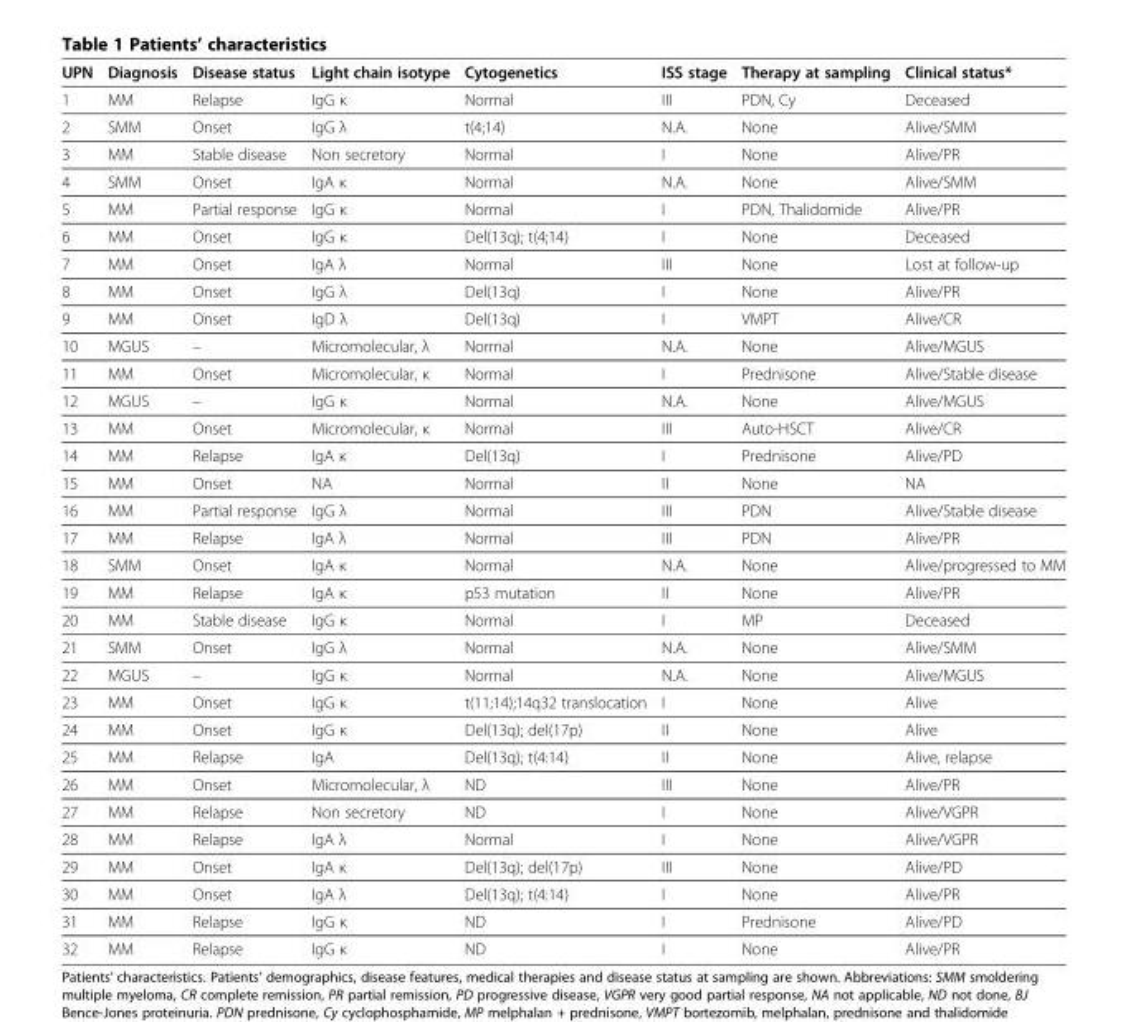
<table><thead><tr><td>UPN</td><td>Diagnosis</td><td>Disease status</td><td>Light chain isotype</td><td>Cytogenetics</td><td>ISS stage</td><td>Therapy at sampling</td><td>Clinical status*</td></tr></thead><tbody><tr><td>1</td><td>MM</td><td>Relapse</td><td>IgG κ</td><td>Normal</td><td>III</td><td>PDN, Cy</td><td>Deceased</td></tr><tr><td>2</td><td>SMM</td><td>Onset</td><td>IgG λ</td><td>t(4;14)</td><td>N.A.</td><td>None</td><td>Alive/SMM</td></tr><tr><td>3</td><td>MM</td><td>Stable disease</td><td>Non secretory</td><td>Normal</td><td>I</td><td>None</td><td>Alive/PR</td></tr><tr><td>4</td><td>SMM</td><td>Onset</td><td>IgA κ</td><td>Normal</td><td>N.A.</td><td>None</td><td>Alive/SMM</td></tr><tr><td>5</td><td>MM</td><td>Partial response</td><td>IgG κ</td><td>Normal</td><td>I</td><td>PDN, Thalidomide</td><td>Alive/PR</td></tr><tr><td>6</td><td>MM</td><td>Onset</td><td>IgG κ</td><td>Del(13q); t(4;14)</td><td>I</td><td>None</td><td>Deceased</td></tr><tr><td>7</td><td>MM</td><td>Onset</td><td>IgA λ</td><td>Normal</td><td>III</td><td>None</td><td>Lost at follow-up</td></tr><tr><td>8</td><td>MM</td><td>Onset</td><td>IgG λ</td><td>Del(13q)</td><td>I</td><td>None</td><td>Alive/PR</td></tr><tr><td>9</td><td>MM</td><td>Onset</td><td>IgD λ</td><td>Del(13q)</td><td>I</td><td>VMPT</td><td>Alive/CR</td></tr><tr><td>10</td><td>MGUS</td><td>–</td><td>Micromolecular, λ</td><td>Normal</td><td>N.A.</td><td>None</td><td>Alive/MGUS</td></tr><tr><td>11</td><td>MM</td><td>Onset</td><td>Micromolecular, κ</td><td>Normal</td><td>I</td><td>Prednisone</td><td>Alive/Stable disease</td></tr><tr><td>12</td><td>MGUS</td><td>–</td><td>IgG κ</td><td>Normal</td><td>N.A.</td><td>None</td><td>Alive/MGUS</td></tr><tr><td>13</td><td>MM</td><td>Onset</td><td>Micromolecular, κ</td><td>Normal</td><td>III</td><td>Auto-HSCT</td><td>Alive/CR</td></tr><tr><td>14</td><td>MM</td><td>Relapse</td><td>IgA κ</td><td>Del(13q)</td><td>I</td><td>Prednisone</td><td>Alive/PD</td></tr><tr><td>15</td><td>MM</td><td>Onset</td><td>NA</td><td>Normal</td><td>II</td><td>None</td><td>NA</td></tr><tr><td>16</td><td>MM</td><td>Partial response</td><td>IgG λ</td><td>Normal</td><td>III</td><td>PDN</td><td>Alive/Stable disease</td></tr><tr><td>17</td><td>MM</td><td>Relapse</td><td>IgA λ</td><td>Normal</td><td>III</td><td>PDN</td><td>Alive/PR</td></tr><tr><td>18</td><td>SMM</td><td>Onset</td><td>IgA κ</td><td>Normal</td><td>N.A.</td><td>None</td><td>Alive/progressed to MM</td></tr><tr><td>19</td><td>MM</td><td>Relapse</td><td>IgA κ</td><td>p53 mutation</td><td>II</td><td>None</td><td>Alive/PR</td></tr><tr><td>20</td><td>MM</td><td>Stable disease</td><td>IgG κ</td><td>Normal</td><td>I</td><td>MP</td><td>Deceased</td></tr><tr><td>21</td><td>SMM</td><td>Onset</td><td>IgG λ</td><td>Normal</td><td>N.A.</td><td>None</td><td>Alive/SMM</td></tr><tr><td>22</td><td>MGUS</td><td>–</td><td>IgG κ</td><td>Normal</td><td>N.A.</td><td>None</td><td>Alive/MGUS</td></tr><tr><td>23</td><td>MM</td><td>Onset</td><td>IgG κ</td><td>t(11;14);14q32 translocation</td><td>I</td><td>None</td><td>Alive</td></tr><tr><td>24</td><td>MM</td><td>Onset</td><td>IgG κ</td><td>Del(13q); del(17p)</td><td>II</td><td>None</td><td>Alive</td></tr><tr><td>25</td><td>MM</td><td>Relapse</td><td>IgA</td><td>Del(13q); t(4:14)</td><td>II</td><td>None</td><td>Alive, relapse</td></tr><tr><td>26</td><td>MM</td><td>Onset</td><td>Micromolecular, λ</td><td>ND</td><td>III</td><td>None</td><td>Alive/PR</td></tr><tr><td>27</td><td>MM</td><td>Relapse</td><td>Non secretory</td><td>ND</td><td>I</td><td>None</td><td>Alive/VGPR</td></tr><tr><td>28</td><td>MM</td><td>Relapse</td><td>IgA λ</td><td>Normal</td><td>I</td><td>None</td><td>Alive/VGPR</td></tr><tr><td>29</td><td>MM</td><td>Onset</td><td>IgA κ</td><td>Del(13q); del(17p)</td><td>III</td><td>None</td><td>Alive/PD</td></tr><tr><td>30</td><td>MM</td><td>Onset</td><td>IgA λ</td><td>Del(13q); t(4:14)</td><td>I</td><td>None</td><td>Alive/PR</td></tr><tr><td>31</td><td>MM</td><td>Relapse</td><td>IgG κ</td><td>ND</td><td>I</td><td>Prednisone</td><td>Alive/PD</td></tr><tr><td>32</td><td>MM</td><td>Relapse</td><td>IgG κ</td><td>ND</td><td>I</td><td>None</td><td>Alive/PR</td></tr></tbody></table>